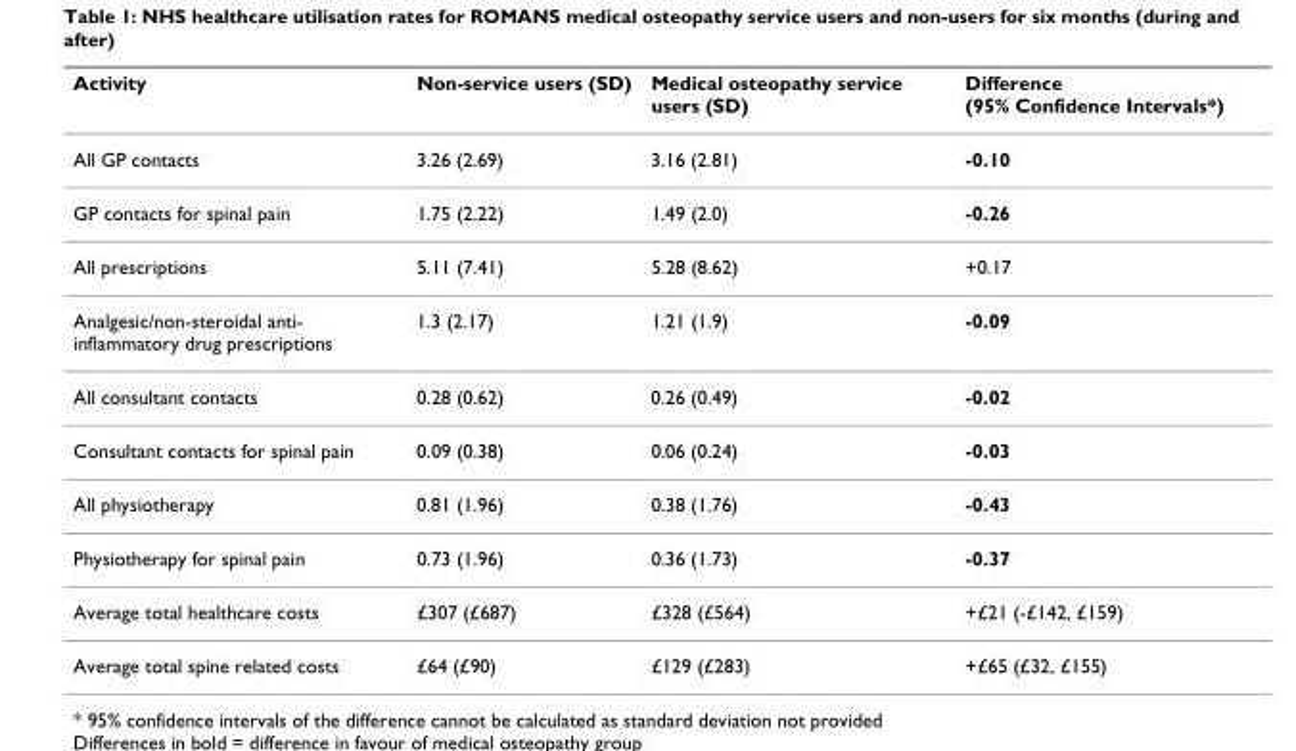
<table><thead><tr><td>Activity</td><td>Non-service users (SD)</td><td>Medical osteopathy service users (SD)</td><td>Difference (95% Confidence Intervals*)</td></tr></thead><tbody><tr><td>All GP contacts</td><td>3.26 (2.69)</td><td>3.16 (2.81)</td><td>-0.10</td></tr><tr><td>GP contacts for spinal pain</td><td>1.75 (2.22)</td><td>1.49 (2.0)</td><td>-0.26</td></tr><tr><td>All prescriptions</td><td>5.11 (7.41)</td><td>5.28 (8.62)</td><td>+0.17</td></tr><tr><td>Analgesic/non-steroidal anti- inflammatory drug prescriptions</td><td>1.3 (2.17)</td><td>1.21 (1.9)</td><td>-0.09</td></tr><tr><td>All consultant contacts</td><td>0.28 (0.62)</td><td>0.26 (0.49)</td><td>-0.02</td></tr><tr><td>Consultant contacts for spinal pain</td><td>0.09 (0.38)</td><td>0.06 (0.24)</td><td>-0.03</td></tr><tr><td>All physiotherapy</td><td>0.81 (1.96)</td><td>0.38 (1.76)</td><td>-0.43</td></tr><tr><td>Physiotherapy for spinal pain</td><td>0.73 (1.96)</td><td>0.36 (1.73)</td><td>-0.37</td></tr><tr><td>Average total healthcare costs</td><td>£307 (£687)</td><td>£328 (£564)</td><td>+£21 (-£142, £159)</td></tr><tr><td>Average total spine related costs</td><td>£64 (£90)</td><td>£129 (£283)</td><td>+£65 (£32, £155)</td></tr></tbody></table>